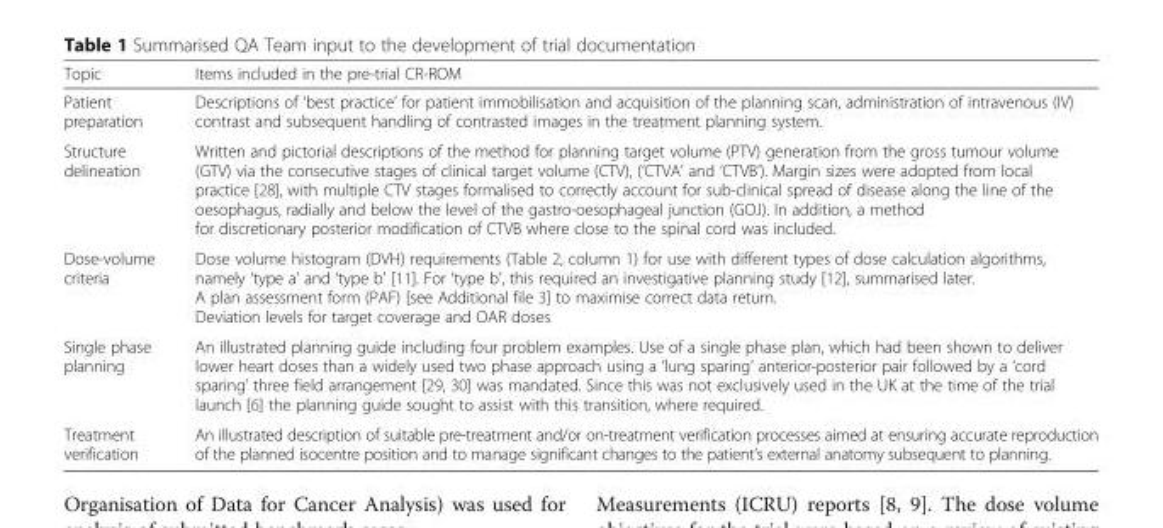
<table><thead><tr><td>Topic</td><td>Items included in the pre-trial CR-ROM</td></tr></thead><tbody><tr><td>Patient preparation</td><td>Descriptions of ‘best practice’ for patient immobilisation and acquisition of the planning scan, administration of intravenous (IV) contrast and subsequent handling of contrasted images in the treatment planning system.</td></tr><tr><td>Structure delineation</td><td>Written and pictorial descriptions of the method for planning target volume (PTV) generation from the gross tumour volume (GTV) via the consecutive stages of clinical target volume (CTV), (‘CTVA’ and ‘CTVB’). Margin sizes were adopted from local practice [28], with multiple CTV stages formalised to correctly account for sub-clinical spread of disease along the line of the oesophagus, radially and below the level of the gastro-oesophageal junction (GOJ). In addition, a method for discretionary posterior modification of CTVB where close to the spinal cord was included.</td></tr><tr><td>Dose-volume criteria</td><td>Dose volume histogram (DVH) requirements (Table 2, column 1) for use with different types of dose calculation algorithms, namely ‘type a’ and ‘type b’ [11]. For ‘type b’, this required an investigative planning study [12], summarised later. A plan assessment form (PAF) [see Additional file 3] to maximise correct data return. Deviation levels for target coverage and OAR doses</td></tr><tr><td>Single phase planning</td><td>An illustrated planning guide including four problem examples. Use of a single phase plan, which had been shown to deliver lower heart doses than a widely used two phase approach using a ‘lung sparing’ anterior-posterior pair followed by a ‘cord sparing’ three field arrangement [29, 30] was mandated. Since this was not exclusively used in the UK at the time of the trial launch [6] the planning guide sought to assist with this transition, where required.</td></tr><tr><td>Treatment verification</td><td>An illustrated description of suitable pre-treatment and/or on-treatment verification processes aimed at ensuring accurate reproduction of the planned isocentre position and to manage significant changes to the patient’s external anatomy subsequent to planning.</td></tr></tbody></table>